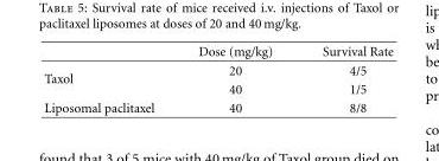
<table><thead><tr><td></td><td>Dose (mg/kg)</td><td>Survival Rate</td></tr></thead><tbody><tr><td rowspan="2">Taxol</td><td>20</td><td>4/5</td></tr><tr><td>40</td><td>1/5</td></tr><tr><td>Liposomal paclitaxel</td><td>40</td><td>8/8</td></tr></tbody></table>